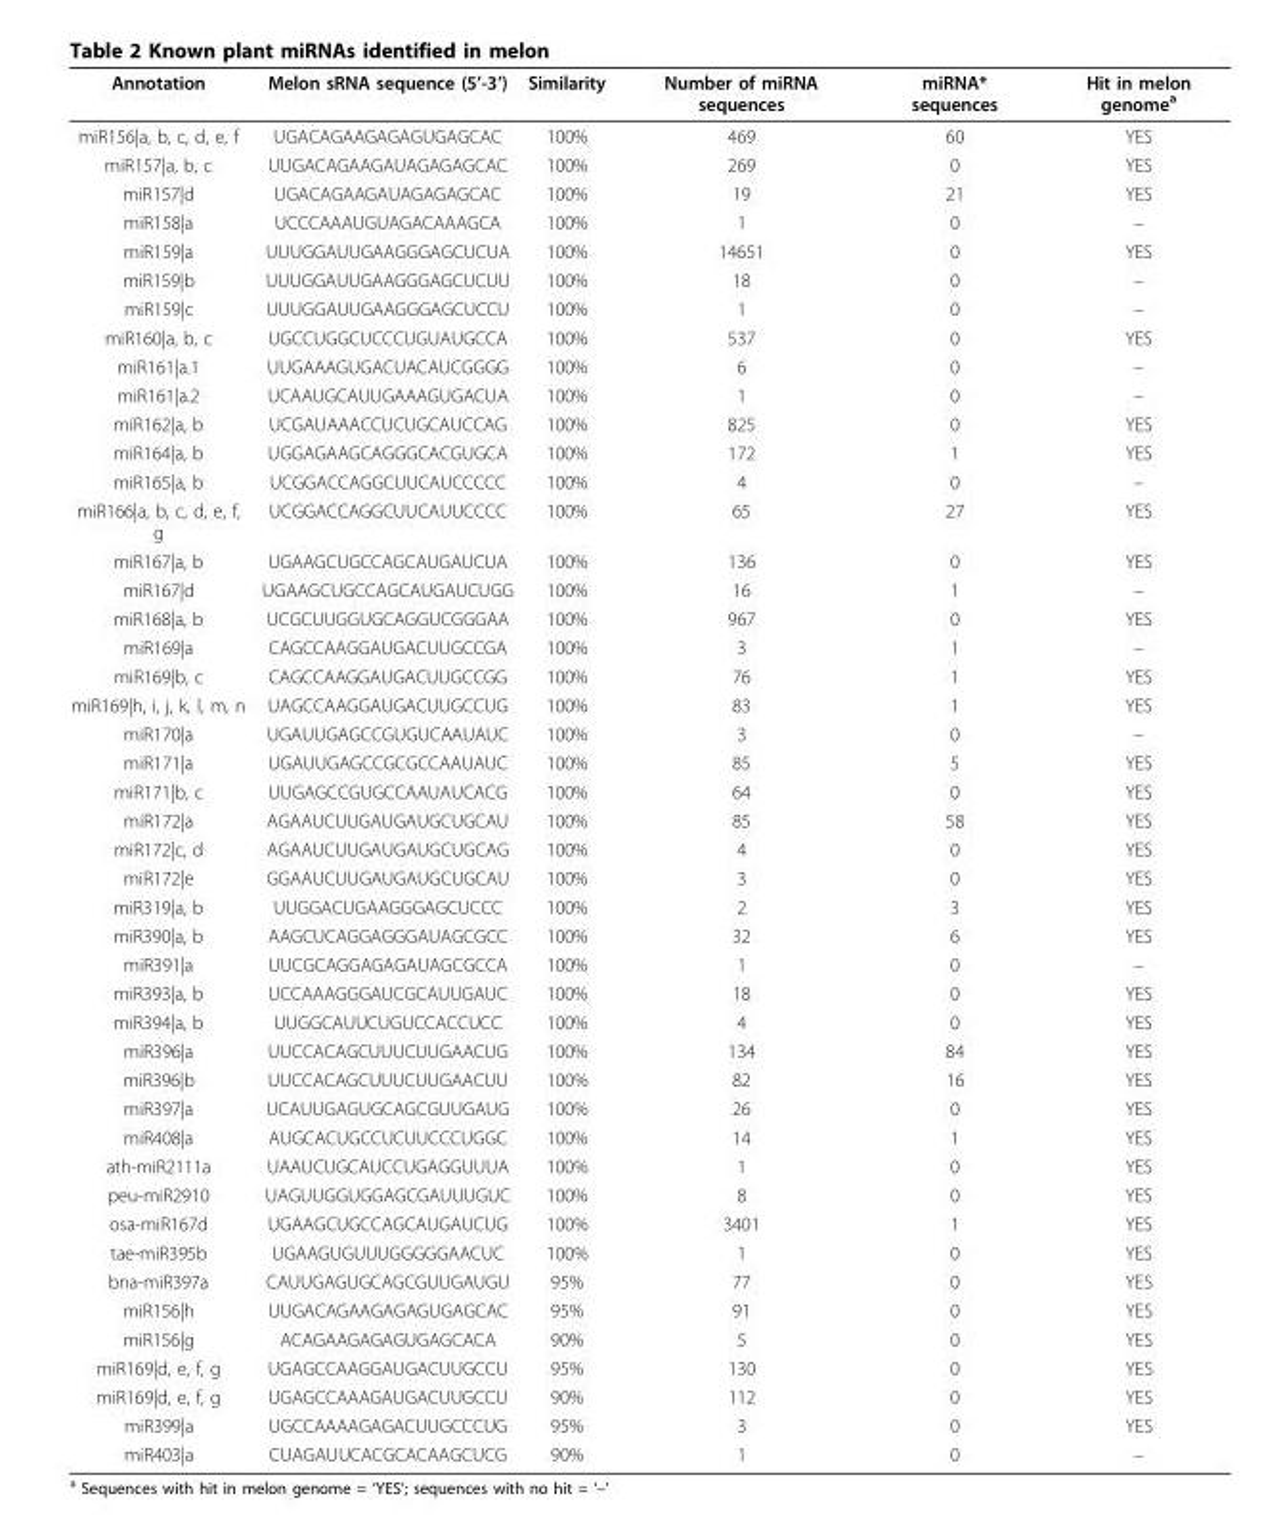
<table><thead><tr><td>Annotation</td><td>Melon sRNA sequence (5’-3’)</td><td>Similarity</td><td>Number of miRNA sequences</td><td>miRNA* sequences</td><td>Hit in melon genome<sup>a</sup></td></tr></thead><tbody><tr><td>miR156|a, b, c, d, e, f</td><td>UGACAGAAGAGAGUGAGCAC</td><td>100%</td><td>469</td><td>60</td><td>YES</td></tr><tr><td>miR157|a, b, c</td><td>UUGACAGAAGAUAGAGAGCAC</td><td>100%</td><td>269</td><td>0</td><td>YES</td></tr><tr><td>miR157|d</td><td>UGACAGAAGAUAGAGAGCAC</td><td>100%</td><td>19</td><td>21</td><td>YES</td></tr><tr><td>miR158|a</td><td>UCCCAAAUGUAGACAAAGCA</td><td>100%</td><td>1</td><td>0</td><td>–</td></tr><tr><td>miR159|a</td><td>UUUGGAUUGAAGGGAGCUCUA</td><td>100%</td><td>14651</td><td>0</td><td>YES</td></tr><tr><td>miR159|b</td><td>UUUGGAUUGAAGGGAGCUCUU</td><td>100%</td><td>18</td><td>0</td><td>–</td></tr><tr><td>miR159|c</td><td>UUUGGAUUGAAGGGAGCUCCU</td><td>100%</td><td>1</td><td>0</td><td>–</td></tr><tr><td>miR160|a, b, c</td><td>UGCCUGGCUCCCUGUAUGCCA</td><td>100%</td><td>537</td><td>0</td><td>YES</td></tr><tr><td>miR161|a.1</td><td>UUGAAAGUGACUACAUCGGGG</td><td>100%</td><td>6</td><td>0</td><td>–</td></tr><tr><td>miR161|a.2</td><td>UCAAUGCAUUGAAAGUGACUA</td><td>100%</td><td>1</td><td>0</td><td>–</td></tr><tr><td>miR162|a, b</td><td>UCGAUAAACCUCUGCAUCCAG</td><td>100%</td><td>825</td><td>0</td><td>YES</td></tr><tr><td>miR164|a, b</td><td>UGGAGAAGCAGGGCACGUGCA</td><td>100%</td><td>172</td><td>1</td><td>YES</td></tr><tr><td>miR165|a, b</td><td>UCGGACCAGGCUUCAUCCCCC</td><td>100%</td><td>4</td><td>0</td><td>–</td></tr><tr><td>miR166|a, b, c, d, e, f, g</td><td>UCGGACCAGGCUUCAUUCCCC</td><td>100%</td><td>65</td><td>27</td><td>YES</td></tr><tr><td>miR167|a, b</td><td>UGAAGCUGCCAGCAUGAUCUA</td><td>100%</td><td>136</td><td>0</td><td>YES</td></tr><tr><td>miR167|d</td><td>UGAAGCUGCCAGCAUGAUCUGG</td><td>100%</td><td>16</td><td>1</td><td>–</td></tr><tr><td>miR168|a, b</td><td>UCGCUUGGUGCAGGUCGGGAA</td><td>100%</td><td>967</td><td>0</td><td>YES</td></tr><tr><td>miR169|a</td><td>CAGCCAAGGAUGACUUGCCGA</td><td>100%</td><td>3</td><td>1</td><td>–</td></tr><tr><td>miR169|b, c</td><td>CAGCCAAGGAUGACUUGCCGG</td><td>100%</td><td>76</td><td>1</td><td>YES</td></tr><tr><td>miR169|h, i, j, k, l, m, n</td><td>UAGCCAAGGAUGACUUGCCUG</td><td>100%</td><td>83</td><td>1</td><td>YES</td></tr><tr><td>miR170|a</td><td>UGAUUGAGCCGUGUCAAUAUC</td><td>100%</td><td>3</td><td>0</td><td>–</td></tr><tr><td>miR171|a</td><td>UGAUUGAGCCGCGCCAAUAUC</td><td>100%</td><td>85</td><td>5</td><td>YES</td></tr><tr><td>miR171|b, c</td><td>UUGAGCCGUGCCAAUAUCACG</td><td>100%</td><td>64</td><td>0</td><td>YES</td></tr><tr><td>miR172|a</td><td>AGAAUCUUGAUGAUGCUGCAU</td><td>100%</td><td>85</td><td>58</td><td>YES</td></tr><tr><td>miR172|c, d</td><td>AGAAUCUUGAUGAUGCUGCAG</td><td>100%</td><td>4</td><td>0</td><td>YES</td></tr><tr><td>miR172|e</td><td>GGAAUCUUGAUGAUGCUGCAU</td><td>100%</td><td>3</td><td>0</td><td>YES</td></tr><tr><td>miR319|a, b</td><td>UUGGACUGAAGGGAGCUCCC</td><td>100%</td><td>2</td><td>3</td><td>YES</td></tr><tr><td>miR390|a, b</td><td>AAGCUCAGGAGGGAUAGCGCC</td><td>100%</td><td>32</td><td>6</td><td>YES</td></tr><tr><td>miR391|a</td><td>UUCGCAGGAGAGAUAGCGCCA</td><td>100%</td><td>1</td><td>0</td><td>–</td></tr><tr><td>miR393|a, b</td><td>UCCAAAGGGAUCGCAUUGAUC</td><td>100%</td><td>18</td><td>0</td><td>YES</td></tr><tr><td>miR394|a, b</td><td>UUGGCAUUCUGUCCACCUCC</td><td>100%</td><td>4</td><td>0</td><td>YES</td></tr><tr><td>miR396|a</td><td>UUCCACAGCUUUCUUGAACUG</td><td>100%</td><td>134</td><td>84</td><td>YES</td></tr><tr><td>miR396|b</td><td>UUCCACAGCUUUCUUGAACUU</td><td>100%</td><td>82</td><td>16</td><td>YES</td></tr><tr><td>miR397|a</td><td>UCAUUGAGUGCAGCGUUGAUG</td><td>100%</td><td>26</td><td>0</td><td>YES</td></tr><tr><td>miR408|a</td><td>AUGCACUGCCUCUUCCCUGGC</td><td>100%</td><td>14</td><td>1</td><td>YES</td></tr><tr><td>ath-miR2111a</td><td>UAAUCUGCAUCCUGAGGUUUA</td><td>100%</td><td>1</td><td>0</td><td>YES</td></tr><tr><td>peu-miR2910</td><td>UAGUUGGUGGAGCGAUUUGUC</td><td>100%</td><td>8</td><td>0</td><td>YES</td></tr><tr><td>osa-miR167d</td><td>UGAAGCUGCCAGCAUGAUCUG</td><td>100%</td><td>3401</td><td>1</td><td>YES</td></tr><tr><td>tae-miR395b</td><td>UGAAGUGUUUGGGGGAACUC</td><td>100%</td><td>1</td><td>0</td><td>YES</td></tr><tr><td>bna-miR397a</td><td>CAUUGAGUGCAGCGUUGAUGU</td><td>95%</td><td>77</td><td>0</td><td>YES</td></tr><tr><td>miR156|h</td><td>UUGACAGAAGAGAGUGAGCAC</td><td>95%</td><td>91</td><td>0</td><td>YES</td></tr><tr><td>miR156|g</td><td>ACAGAAGAGAGUGAGCACA</td><td>90%</td><td>5</td><td>0</td><td>YES</td></tr><tr><td>miR169|d, e, f, g</td><td>UGAGCCAAGGAUGACUUGCCU</td><td>95%</td><td>130</td><td>0</td><td>YES</td></tr><tr><td>miR169|d, e, f, g</td><td>UGAGCCAAAGAUGACUUGCCU</td><td>90%</td><td>112</td><td>0</td><td>YES</td></tr><tr><td>miR399|a</td><td>UGCCAAAAGAGACUUGCCCUG</td><td>95%</td><td>3</td><td>0</td><td>YES</td></tr><tr><td>miR403|a</td><td>CUAGAUUCACGCACAAGCUCG</td><td>90%</td><td>1</td><td>0</td><td>–</td></tr></tbody></table>